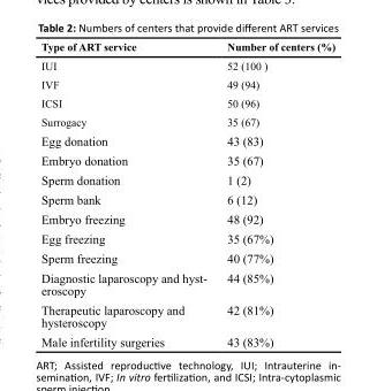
<table><thead><tr><td>Type of ART service</td><td>Number of centers (%)</td></tr></thead><tbody><tr><td>IUI</td><td>52 (100 )</td></tr><tr><td>IVF</td><td>49 (94)</td></tr><tr><td>ICSI</td><td>50 (96)</td></tr><tr><td>Surrogacy</td><td>35 (67)</td></tr><tr><td>Egg donation</td><td>43 (83)</td></tr><tr><td>Embryo donation</td><td>35 (67)</td></tr><tr><td>Sperm donation</td><td>1 (2)</td></tr><tr><td>Sperm bank</td><td>6 (12)</td></tr><tr><td>Embryo freezing</td><td>48 (92)</td></tr><tr><td>Egg freezing</td><td>35 (67%)</td></tr><tr><td>Sperm freezing</td><td>40 (77%)</td></tr><tr><td>Diagnostic laparoscopy and hyst- eroscopy</td><td>44 (85%)</td></tr><tr><td>Therapeutic laparoscopy and hysteroscopy</td><td>42 (81%)</td></tr><tr><td>Male infertility surgeries</td><td>43 (83%)</td></tr></tbody></table>